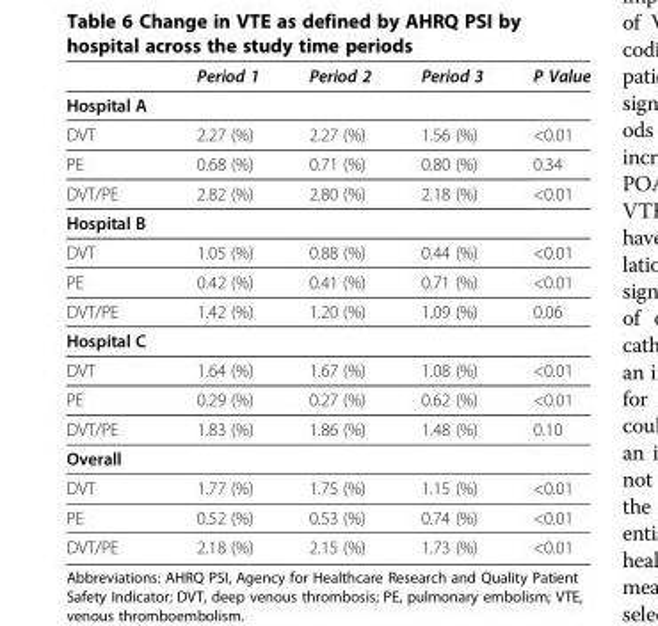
<table><thead><tr><td></td><td>Period 1</td><td>Period 2</td><td>Period 3</td><td>P Value</td></tr></thead><tbody><tr><td colspan="5">Hospital A</td></tr><tr><td>DVT</td><td>2.27 (%)</td><td>2.27 (%)</td><td>1.56 (%)</td><td>&lt;0.01</td></tr><tr><td>PE</td><td>0.68 (%)</td><td>0.71 (%)</td><td>0.80 (%)</td><td>0.34</td></tr><tr><td>DVT/PE</td><td>2.82 (%)</td><td>2.80 (%)</td><td>2.18 (%)</td><td>&lt;0.01</td></tr><tr><td colspan="5">Hospital B</td></tr><tr><td>DVT</td><td>1.05 (%)</td><td>0.88 (%)</td><td>0.44 (%)</td><td>&lt;0.01</td></tr><tr><td>PE</td><td>0.42 (%)</td><td>0.41 (%)</td><td>0.71 (%)</td><td>&lt;0.01</td></tr><tr><td>DVT/PE</td><td>1.42 (%)</td><td>1.20 (%)</td><td>1.09 (%)</td><td>0.06</td></tr><tr><td colspan="5">Hospital C</td></tr><tr><td>DVT</td><td>1.64 (%)</td><td>1.67 (%)</td><td>1.08 (%)</td><td>&lt;0.01</td></tr><tr><td>PE</td><td>0.29 (%)</td><td>0.27 (%)</td><td>0.62 (%)</td><td>&lt;0.01</td></tr><tr><td>DVT/PE</td><td>1.83 (%)</td><td>1.86 (%)</td><td>1.48 (%)</td><td>0.10</td></tr><tr><td colspan="5">Overall</td></tr><tr><td>DVT</td><td>1.77 (%)</td><td>1.75 (%)</td><td>1.15 (%)</td><td>&lt;0.01</td></tr><tr><td>PE</td><td>0.52 (%)</td><td>0.53 (%)</td><td>0.74 (%)</td><td>&lt;0.01</td></tr><tr><td>DVT/PE</td><td>2.18 (%)</td><td>2.15 (%)</td><td>1.73 (%)</td><td>&lt;0.01</td></tr></tbody></table>